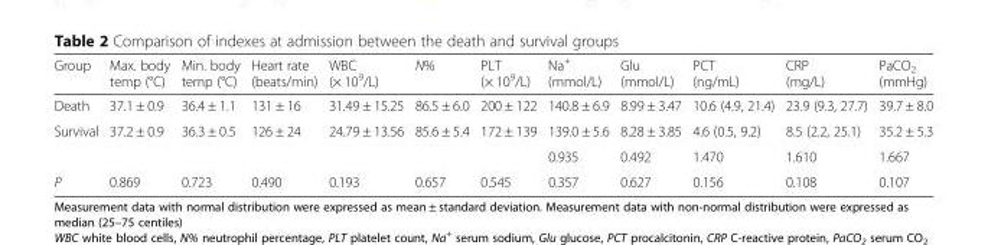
<table><thead><tr><td>Group</td><td>Max. body temp (°C)</td><td>Min. body temp (°C)</td><td>Heart rate (beats/min)</td><td>WBC (× 10<sup>9</sup>/L)</td><td>N%</td><td>PLT (× 10<sup>9</sup>/L)</td><td>Na<sup>+</sup> (mmol/L)</td><td>Glu (mmol/L)</td><td>PCT (ng/mL)</td><td>CRP (mg/L)</td><td>PaCO<sub>2</sub> (mmHg)</td></tr></thead><tbody><tr><td>Death</td><td>37.1 ± 0.9</td><td>36.4 ± 1.1</td><td>131 ± 16</td><td>31.49 ± 15.25</td><td>86.5 ± 6.0</td><td>200 ± 122</td><td>140.8 ± 6.9</td><td>8.99 ± 3.47</td><td>10.6 (4.9, 21.4)</td><td>23.9 (9.3, 27.7)</td><td>39.7 ± 8.0</td></tr><tr><td rowspan="2">Survival</td><td>37.2 ± 0.9</td><td>36.3 ± 0.5</td><td>126 ± 24</td><td>24.79 ± 13.56</td><td>85.6 ± 5.4</td><td>172 ± 139</td><td>139.0 ± 5.6</td><td>8.28 ± 3.85</td><td>4.6 (0.5, 9.2)</td><td>8.5 (2.2, 25.1)</td><td>35.2 ± 5.3</td></tr><tr><td></td><td></td><td></td><td></td><td></td><td></td><td>0.935</td><td>0.492</td><td>1.470</td><td>1.610</td><td>1.667</td></tr><tr><td>P</td><td>0.869</td><td>0.723</td><td>0.490</td><td>0.193</td><td>0.657</td><td>0.545</td><td>0.357</td><td>0.627</td><td>0.156</td><td>0.108</td><td>0.107</td></tr></tbody></table>